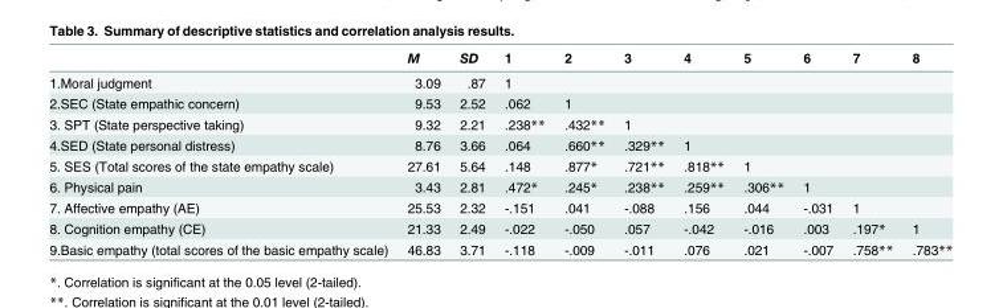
<table><thead><tr><td></td><td>M</td><td>SD</td><td>1</td><td>2</td><td>3</td><td>4</td><td>5</td><td>6</td><td>7</td><td>8</td></tr></thead><tbody><tr><td>1.Moral judgment</td><td>3.09</td><td>.87</td><td>1</td><td></td><td></td><td></td><td></td><td></td><td></td><td></td></tr><tr><td>2.SEC (State empathic concern)</td><td>9.53</td><td>2.52</td><td>.062</td><td>1</td><td></td><td></td><td></td><td></td><td></td><td></td></tr><tr><td>3. SPT (State perspective taking)</td><td>9.32</td><td>2.21</td><td>.238**</td><td>.432**</td><td>1</td><td></td><td></td><td></td><td></td><td></td></tr><tr><td>4.SED (State personal distress)</td><td>8.76</td><td>3.66</td><td>.064</td><td>.660**</td><td>.329**</td><td>1</td><td></td><td></td><td></td><td></td></tr><tr><td>5. SES (Total scores of the state empathy scale)</td><td>27.61</td><td>5.64</td><td>.148</td><td>.877*</td><td>.721**</td><td>.818**</td><td>1</td><td></td><td></td><td></td></tr><tr><td>6. Physical pain</td><td>3.43</td><td>2.81</td><td>.472*</td><td>.245*</td><td>.238**</td><td>.259**</td><td>.306**</td><td>1</td><td></td><td></td></tr><tr><td>7. Affective empathy (AE)</td><td>25.53</td><td>2.32</td><td>-.151</td><td>.041</td><td>-.088</td><td>.156</td><td>.044</td><td>-.031</td><td>1</td><td></td></tr><tr><td>8. Cognition empathy (CE)</td><td>21.33</td><td>2.49</td><td>-.022</td><td>-.050</td><td>.057</td><td>-.042</td><td>-.016</td><td>.003</td><td>.197*</td><td>1</td></tr><tr><td>9.Basic empathy (total scores of the basic empathy scale)</td><td>46.83</td><td>3.71</td><td>-.118</td><td>-.009</td><td>-.011</td><td>.076</td><td>.021</td><td>-.007</td><td>.758**</td><td>.783**</td></tr></tbody></table>